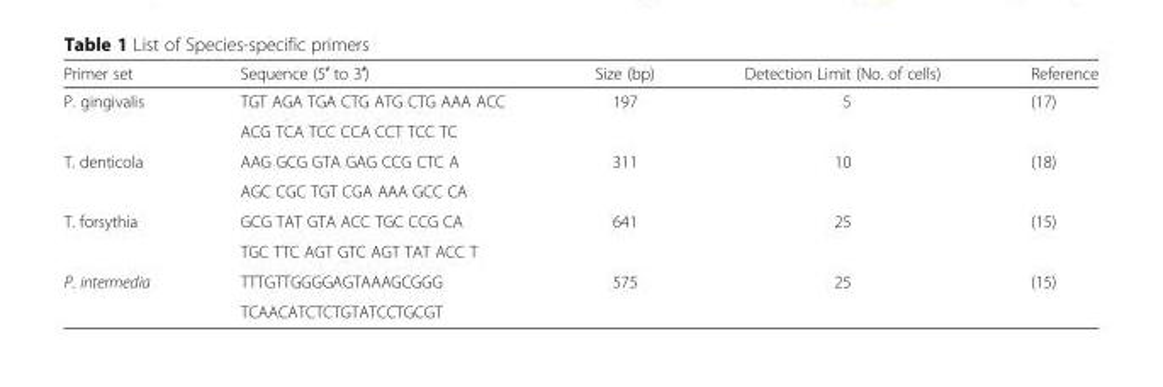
<table><thead><tr><td>Primer set</td><td>Sequence (5′ to 3′)</td><td>Size (bp)</td><td>Detection Limit (No. of cells)</td><td>Reference</td></tr></thead><tbody><tr><td rowspan="2">P. gingivalis</td><td>TGT AGA TGA CTG ATG CTG AAA ACC</td><td>197</td><td>5</td><td>(17)</td></tr><tr><td>ACG TCA TCC CCA CCT TCC TC</td><td></td><td></td><td></td></tr><tr><td rowspan="2">T. denticola</td><td>AAG GCG GTA GAG CCG CTC A</td><td>311</td><td>10</td><td>(18)</td></tr><tr><td>AGC CGC TGT CGA AAA GCC CA</td><td></td><td></td><td></td></tr><tr><td rowspan="2">T. forsythia</td><td>GCG TAT GTA ACC TGC CCG CA</td><td>641</td><td>25</td><td>(15)</td></tr><tr><td>TGC TTC AGT GTC AGT TAT ACC T</td><td></td><td></td><td></td></tr><tr><td rowspan="2">P. intermedia</td><td>TTTGTTGGGGAGTAAAGCGGG</td><td>575</td><td>25</td><td>(15)</td></tr><tr><td>TCAACATCTCTGTATCCTGCGT</td><td></td><td></td><td></td></tr></tbody></table>